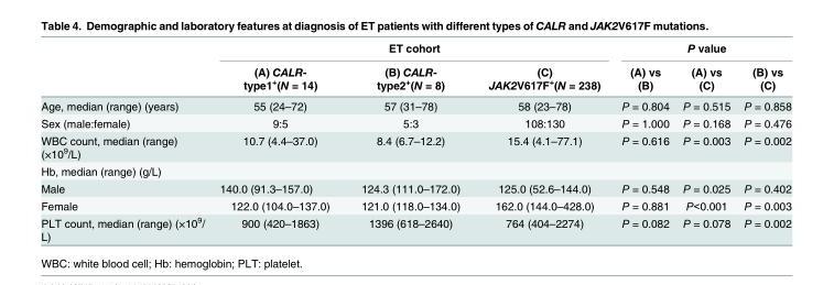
<table><thead><tr><td rowspan="2"></td><td colspan="3">ET cohort</td><td colspan="3">P value</td></tr><tr><td>(A) CALR- type1<sup>+</sup>(N = 14)</td><td>(B) CALR- type2<sup>+</sup>(N = 8)</td><td>(C) JAK2V617F<sup>+</sup>(N = 238)</td><td>(A) vs (B)</td><td>(A) vs (C)</td><td>(B) vs (C)</td></tr></thead><tbody><tr><td>Age, median (range) (years)</td><td>55 (24–72)</td><td>57 (31–78)</td><td>58 (23–78)</td><td>P = 0.804</td><td>P = 0.515</td><td>P = 0.858</td></tr><tr><td>Sex (male:female)</td><td>9:5</td><td>5:3</td><td>108:130</td><td>P = 1.000</td><td>P = 0.168</td><td>P = 0.476</td></tr><tr><td>WBC count, median (range) (×10<sup>9</sup>/L)</td><td>10.7 (4.4–37.0)</td><td>8.4 (6.7–12.2)</td><td>15.4 (4.1–77.1)</td><td>P = 0.616</td><td>P = 0.003</td><td>P = 0.002</td></tr><tr><td colspan="7">Hb, median (range) (g/L)</td></tr><tr><td>Male</td><td>140.0 (91.3–157.0)</td><td>124.3 (111.0–172.0)</td><td>125.0 (52.6–144.0)</td><td>P = 0.548</td><td>P = 0.025</td><td>P = 0.402</td></tr><tr><td>Female</td><td>122.0 (104.0–137.0)</td><td>121.0 (118.0–134.0)</td><td>162.0 (144.0–428.0)</td><td>P = 0.881</td><td>P&lt;0.001</td><td>P = 0.003</td></tr><tr><td>PLT count, median (range) (×10<sup>9</sup>/ L)</td><td>900 (420–1863)</td><td>1396 (618–2640)</td><td>764 (404–2274)</td><td>P = 0.082</td><td>P = 0.078</td><td>P = 0.002</td></tr></tbody></table>